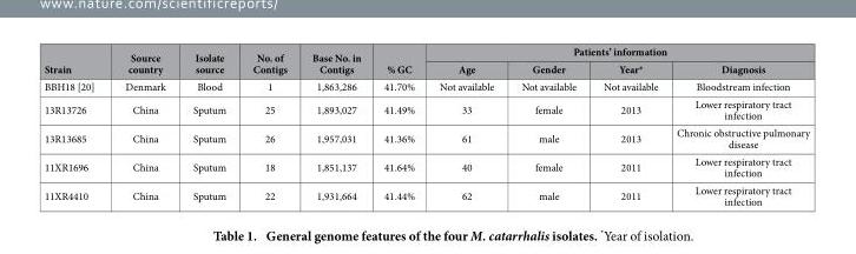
<table><thead><tr><td rowspan="2">Strain</td><td rowspan="2">Source country</td><td rowspan="2">Isolate source</td><td rowspan="2">No. of Contigs</td><td rowspan="2">Base No. in Contigs</td><td rowspan="2">% GC</td><td colspan="4">Patients’ information</td></tr><tr><td>Age</td><td>Gender</td><td>Year*</td><td>Diagnosis</td></tr></thead><tbody><tr><td>BBH18 [20]</td><td>Denmark</td><td>Blood</td><td>1</td><td>1,863,286</td><td>41.70%</td><td>Not available</td><td>Not available</td><td>Not available</td><td>Bloodstream infection</td></tr><tr><td>13R13726</td><td>China</td><td>Sputum</td><td>25</td><td>1,893,027</td><td>41.49%</td><td>33</td><td>female</td><td>2013</td><td>Lower respiratory tract infection</td></tr><tr><td>13R13685</td><td>China</td><td>Sputum</td><td>26</td><td>1,957,031</td><td>41.36%</td><td>61</td><td>male</td><td>2013</td><td>Chronic obstructive pulmonary disease</td></tr><tr><td>11XR1696</td><td>China</td><td>Sputum</td><td>18</td><td>1,851,137</td><td>41.64%</td><td>40</td><td>female</td><td>2011</td><td>Lower respiratory tract infection</td></tr><tr><td>11XR4410</td><td>China</td><td>Sputum</td><td>22</td><td>1,931,664</td><td>41.44%</td><td>62</td><td>male</td><td>2011</td><td>Lower respiratory tract infection</td></tr></tbody></table>